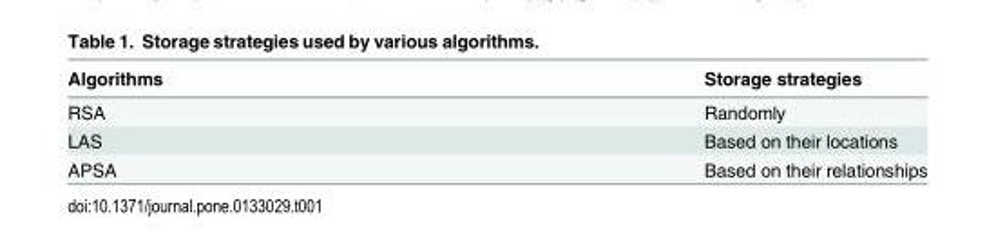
<table><thead><tr><td>Algorithms</td><td>Storage strategies</td></tr></thead><tbody><tr><td>RSA</td><td>Randomly</td></tr><tr><td>LAS</td><td>Based on their locations</td></tr><tr><td>APSA</td><td>Based on their relationships</td></tr></tbody></table>